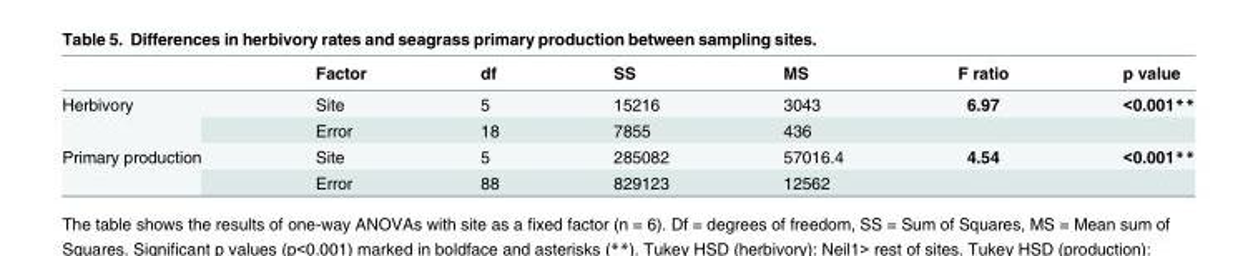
<table><thead><tr><td></td><td>Factor</td><td>df</td><td>SS</td><td>MS</td><td>F ratio</td><td>p value</td></tr></thead><tbody><tr><td rowspan="2">Herbivory</td><td>Site</td><td>5</td><td>15216</td><td>3043</td><td>6.97</td><td>&lt;0.001**</td></tr><tr><td>Error</td><td>18</td><td>7855</td><td>436</td><td></td><td></td></tr><tr><td rowspan="2">Primary production</td><td>Site</td><td>5</td><td>285082</td><td>57016.4</td><td>4.54</td><td>&lt;0.001**</td></tr><tr><td>Error</td><td>88</td><td>829123</td><td>12562</td><td></td><td></td></tr></tbody></table>